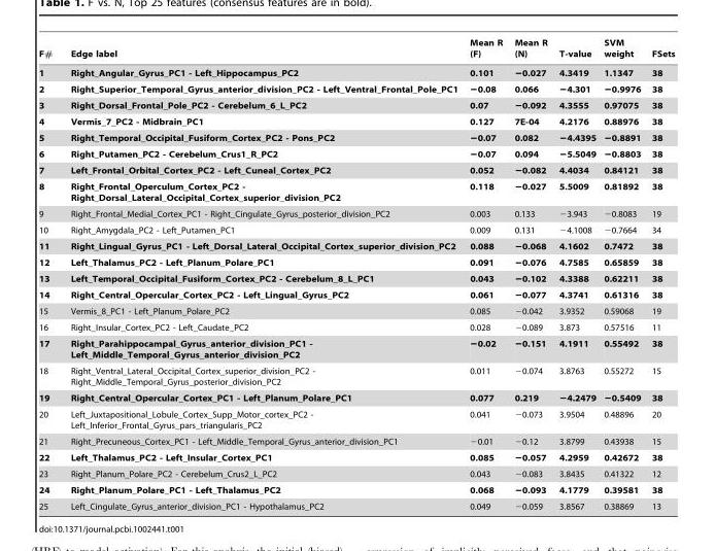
<table><thead><tr><td>F#</td><td>Edge label</td><td>Mean R (F)</td><td>Mean R (N)</td><td>T-value</td><td>SVM weight</td><td>FSets</td></tr></thead><tbody><tr><td>1</td><td>Right_Angular_Gyrus_PC1 - Left_Hippocampus_PC2</td><td>0.101</td><td>−0.027</td><td>4.3419</td><td>1.1347</td><td>38</td></tr><tr><td>2</td><td>Right_Superior_Temporal_Gyrus_anterior_division_PC2 - Left_Ventral_Frontal_Pole_PC1</td><td>−0.08</td><td>0.066</td><td>−4.301</td><td>−0.9976</td><td>38</td></tr><tr><td>3</td><td>Right_Dorsal_Frontal_Pole_PC2 - Cerebelum_6_L_PC2</td><td>0.07</td><td>−0.092</td><td>4.3555</td><td>0.97075</td><td>38</td></tr><tr><td>4</td><td>Vermis_7_PC2 - Midbrain_PC1</td><td>0.127</td><td>7E-04</td><td>4.2176</td><td>0.88976</td><td>38</td></tr><tr><td>5</td><td>Right_Temporal_Occipital_Fusiform_Cortex_PC2 - Pons_PC2</td><td>−0.07</td><td>0.082</td><td>−4.4395</td><td>−0.8891</td><td>38</td></tr><tr><td>6</td><td>Right_Putamen_PC2 - Cerebelum_Crus1_R_PC2</td><td>−0.07</td><td>0.094</td><td>−5.5049</td><td>−0.8803</td><td>38</td></tr><tr><td>7</td><td>Left_Frontal_Orbital_Cortex_PC2 - Left_Cuneal_Cortex_PC2</td><td>0.052</td><td>−0.082</td><td>4.4034</td><td>0.84121</td><td>38</td></tr><tr><td>8</td><td>Right_Frontal_Operculum_Cortex_PC2 - Right_Dorsal_Lateral_Occipital_Cortex_superior_division_PC2</td><td>0.118</td><td>−0.027</td><td>5.5009</td><td>0.81892</td><td>38</td></tr><tr><td>9</td><td>Right_Frontal_Medial_Cortex_PC1 - Right_Cingulate_Gyrus_posterior_division_PC2</td><td>0.003</td><td>0.133</td><td>−3.943</td><td>−0.8083</td><td>19</td></tr><tr><td>10</td><td>Right_Amygdala_PC2 - Left_Putamen_PC1</td><td>0.009</td><td>0.131</td><td>−4.1008</td><td>−0.7664</td><td>34</td></tr><tr><td>11</td><td>Right_Lingual_Gyrus_PC1 - Left_Dorsal_Lateral_Occipital_Cortex_superior_division_PC2</td><td>0.088</td><td>−0.068</td><td>4.1602</td><td>0.7472</td><td>38</td></tr><tr><td>12</td><td>Left_Thalamus_PC2 - Left_Planum_Polare_PC1</td><td>0.091</td><td>−0.076</td><td>4.7585</td><td>0.65859</td><td>38</td></tr><tr><td>13</td><td>Left_Temporal_Occipital_Fusiform_Cortex_PC2 - Cerebelum_8_L_PC1</td><td>0.043</td><td>−0.102</td><td>4.3388</td><td>0.62211</td><td>38</td></tr><tr><td>14</td><td>Right_Central_Opercular_Cortex_PC2 - Left_Lingual_Gyrus_PC2</td><td>0.061</td><td>−0.077</td><td>4.3741</td><td>0.61316</td><td>38</td></tr><tr><td>15</td><td>Vermis_8_PC1 - Left_Planum_Polare_PC2</td><td>0.085</td><td>−0.042</td><td>3.9352</td><td>0.59068</td><td>19</td></tr><tr><td>16</td><td>Right_Insular_Cortex_PC2 - Left_Caudate_PC2</td><td>0.028</td><td>−0.089</td><td>3.873</td><td>0.57516</td><td>11</td></tr><tr><td>17</td><td>Right_Parahippocampal_Gyrus_anterior_division_PC1 - Left_Middle_Temporal_Gyrus_anterior_division_PC2</td><td>−0.02</td><td>−0.151</td><td>4.1911</td><td>0.55492</td><td>38</td></tr><tr><td>18</td><td>Right_Ventral_Lateral_Occipital_Cortex_superior_division_PC2 - Right_Middle_Temporal_Gyrus_posterior_division_PC2</td><td>0.011</td><td>−0.074</td><td>3.8763</td><td>0.55272</td><td>15</td></tr><tr><td>19</td><td>Right_Central_Opercular_Cortex_PC1 - Left_Planum_Polare_PC1</td><td>0.077</td><td>0.219</td><td>−4.2479</td><td>−0.5409</td><td>38</td></tr><tr><td>20</td><td>Left_Juxtapositional_Lobule_Cortex_Supp_Motor_cortex_PC2 - Left_Inferior_Frontal_Gyrus_pars_triangularis_PC2</td><td>0.041</td><td>−0.073</td><td>3.9504</td><td>0.48896</td><td>20</td></tr><tr><td>21</td><td>Right_Precuneous_Cortex_PC1 - Left_Middle_Temporal_Gyrus_anterior_division_PC1</td><td>−0.01</td><td>−0.12</td><td>3.8799</td><td>0.43938</td><td>15</td></tr><tr><td>22</td><td>Left_Thalamus_PC2 - Left_Insular_Cortex_PC1</td><td>0.085</td><td>−0.057</td><td>4.2959</td><td>0.42672</td><td>38</td></tr><tr><td>23</td><td>Right_Planum_Polare_PC2 - Cerebelum_Crus2_L_PC2</td><td>0.043</td><td>−0.083</td><td>3.8435</td><td>0.41322</td><td>12</td></tr><tr><td>24</td><td>Right_Planum_Polare_PC1 - Left_Thalamus_PC2</td><td>0.068</td><td>−0.093</td><td>4.1779</td><td>0.39581</td><td>38</td></tr><tr><td>25</td><td>Left_Cingulate_Gyrus_anterior_division_PC1 - Hypothalamus_PC2</td><td>0.049</td><td>−0.059</td><td>3.8567</td><td>0.38869</td><td>13</td></tr></tbody></table>